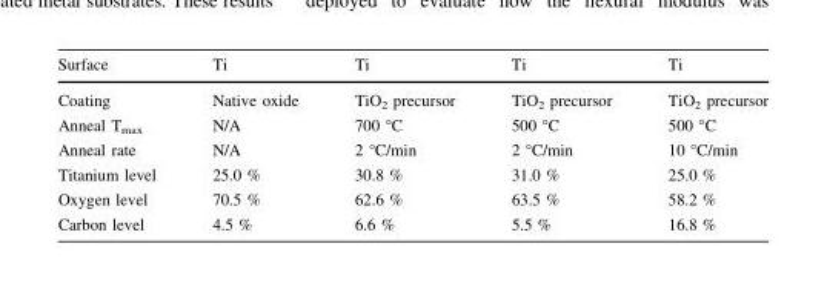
<table><thead><tr><td>Surface</td><td>Ti</td><td>Ti</td><td>Ti</td><td>Ti</td></tr></thead><tbody><tr><td>Coating</td><td>Native oxide</td><td>TiO<sub>2</sub> precursor</td><td>TiO<sub>2</sub> precursor</td><td>TiO<sub>2</sub> precursor</td></tr><tr><td>Anneal T<sub>max</sub></td><td>N/A</td><td>700 °C</td><td>500 °C</td><td>500 °C</td></tr><tr><td>Anneal rate</td><td>N/A</td><td>2 °C/min</td><td>2 °C/min</td><td>10 °C/min</td></tr><tr><td>Titanium level</td><td>25.0 %</td><td>30.8 %</td><td>31.0 %</td><td>25.0 %</td></tr><tr><td>Oxygen level</td><td>70.5 %</td><td>62.6 %</td><td>63.5 %</td><td>58.2 %</td></tr><tr><td>Carbon level</td><td>4.5 %</td><td>6.6 %</td><td>5.5 %</td><td>16.8 %</td></tr></tbody></table>